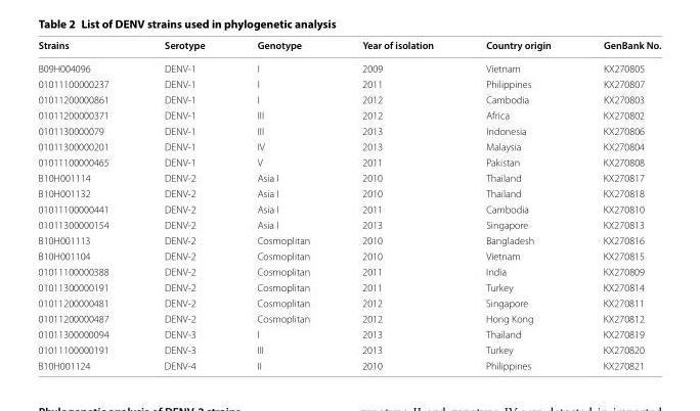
<table><thead><tr><td>Strains</td><td>Serotype</td><td>Genotype</td><td>Year of isolation</td><td>Country origin</td><td>GenBank No.</td></tr></thead><tbody><tr><td>B09H004096</td><td>DENV-1</td><td>I</td><td>2009</td><td>Vietnam</td><td>KX270805</td></tr><tr><td>01011100000237</td><td>DENV-1</td><td>I</td><td>2011</td><td>Philippines</td><td>KX270807</td></tr><tr><td>01011200000861</td><td>DENV-1</td><td>I</td><td>2012</td><td>Cambodia</td><td>KX270803</td></tr><tr><td>01011200000371</td><td>DENV-1</td><td>III</td><td>2012</td><td>Africa</td><td>KX270802</td></tr><tr><td>0101130000079</td><td>DENV-1</td><td>III</td><td>2013</td><td>Indonesia</td><td>KX270806</td></tr><tr><td>01011300000201</td><td>DENV-1</td><td>IV</td><td>2013</td><td>Malaysia</td><td>KX270804</td></tr><tr><td>01011100000465</td><td>DENV-1</td><td>V</td><td>2011</td><td>Pakistan</td><td>KX270808</td></tr><tr><td>B10H001114</td><td>DENV-2</td><td>Asia I</td><td>2010</td><td>Thailand</td><td>KX270817</td></tr><tr><td>B10H001132</td><td>DENV-2</td><td>Asia I</td><td>2010</td><td>Thailand</td><td>KX270818</td></tr><tr><td>01011100000441</td><td>DENV-2</td><td>Asia I</td><td>2011</td><td>Cambodia</td><td>KX270810</td></tr><tr><td>01011300000154</td><td>DENV-2</td><td>Asia I</td><td>2013</td><td>Singapore</td><td>KX270813</td></tr><tr><td>B10H001113</td><td>DENV-2</td><td>Cosmoplitan</td><td>2010</td><td>Bangladesh</td><td>KX270816</td></tr><tr><td>B10H001104</td><td>DENV-2</td><td>Cosmoplitan</td><td>2010</td><td>Vietnam</td><td>KX270815</td></tr><tr><td>01011100000388</td><td>DENV-2</td><td>Cosmoplitan</td><td>2011</td><td>India</td><td>KX270809</td></tr><tr><td>01011300000191</td><td>DENV-2</td><td>Cosmoplitan</td><td>2011</td><td>Turkey</td><td>KX270814</td></tr><tr><td>01011200000481</td><td>DENV-2</td><td>Cosmoplitan</td><td>2012</td><td>Singapore</td><td>KX270811</td></tr><tr><td>01011200000487</td><td>DENV-2</td><td>Cosmoplitan</td><td>2012</td><td>Hong Kong</td><td>KX270812</td></tr><tr><td>01011300000094</td><td>DENV-3</td><td>I</td><td>2013</td><td>Thailand</td><td>KX270819</td></tr><tr><td>01011100000191</td><td>DENV-3</td><td>III</td><td>2013</td><td>Turkey</td><td>KX270820</td></tr><tr><td>B10H001124</td><td>DENV-4</td><td>II</td><td>2010</td><td>Philippines</td><td>KX270821</td></tr></tbody></table>